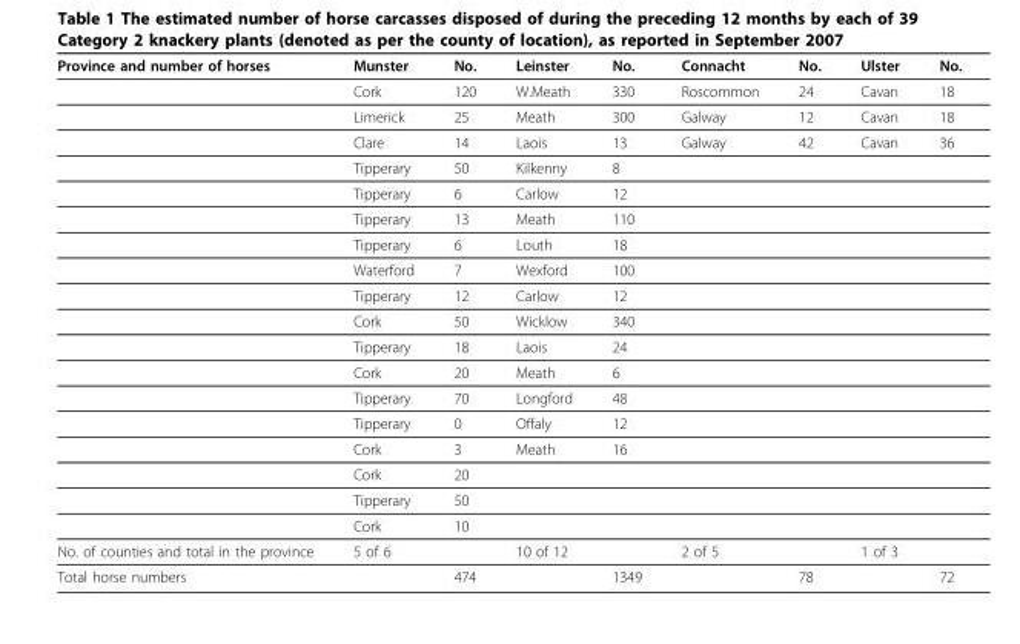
<table><thead><tr><td>Province and number of horses</td><td>Munster</td><td>No.</td><td>Leinster</td><td>No.</td><td>Connacht</td><td>No.</td><td>Ulster</td><td>No.</td></tr></thead><tbody><tr><td></td><td>Cork</td><td>120</td><td>W.Meath</td><td>330</td><td>Roscommon</td><td>24</td><td>Cavan</td><td>18</td></tr><tr><td></td><td>Limerick</td><td>25</td><td>Meath</td><td>300</td><td>Galway</td><td>12</td><td>Cavan</td><td>18</td></tr><tr><td></td><td>Clare</td><td>14</td><td>Laois</td><td>13</td><td>Galway</td><td>42</td><td>Cavan</td><td>36</td></tr><tr><td></td><td>Tipperary</td><td>50</td><td>Kilkenny</td><td>8</td><td></td><td></td><td></td><td></td></tr><tr><td></td><td>Tipperary</td><td>6</td><td>Carlow</td><td>12</td><td></td><td></td><td></td><td></td></tr><tr><td></td><td>Tipperary</td><td>13</td><td>Meath</td><td>110</td><td></td><td></td><td></td><td></td></tr><tr><td></td><td>Tipperary</td><td>6</td><td>Louth</td><td>18</td><td></td><td></td><td></td><td></td></tr><tr><td></td><td>Waterford</td><td>7</td><td>Wexford</td><td>100</td><td></td><td></td><td></td><td></td></tr><tr><td></td><td>Tipperary</td><td>12</td><td>Carlow</td><td>12</td><td></td><td></td><td></td><td></td></tr><tr><td></td><td>Cork</td><td>50</td><td>Wicklow</td><td>340</td><td></td><td></td><td></td><td></td></tr><tr><td></td><td>Tipperary</td><td>18</td><td>Laois</td><td>24</td><td></td><td></td><td></td><td></td></tr><tr><td></td><td>Cork</td><td>20</td><td>Meath</td><td>6</td><td></td><td></td><td></td><td></td></tr><tr><td></td><td>Tipperary</td><td>70</td><td>Longford</td><td>48</td><td></td><td></td><td></td><td></td></tr><tr><td></td><td>Tipperary</td><td>0</td><td>Offaly</td><td>12</td><td></td><td></td><td></td><td></td></tr><tr><td></td><td>Cork</td><td>3</td><td>Meath</td><td>16</td><td></td><td></td><td></td><td></td></tr><tr><td></td><td>Cork</td><td>20</td><td></td><td></td><td></td><td></td><td></td><td></td></tr><tr><td></td><td>Tipperary</td><td>50</td><td></td><td></td><td></td><td></td><td></td><td></td></tr><tr><td></td><td>Cork</td><td>10</td><td></td><td></td><td></td><td></td><td></td><td></td></tr><tr><td>No. of counties and total in the province</td><td>5 of 6</td><td></td><td>10 of 12</td><td></td><td>2 of 5</td><td></td><td>1 of 3</td><td></td></tr><tr><td>Total horse numbers</td><td></td><td>474</td><td></td><td>1349</td><td></td><td>78</td><td></td><td>72</td></tr></tbody></table>